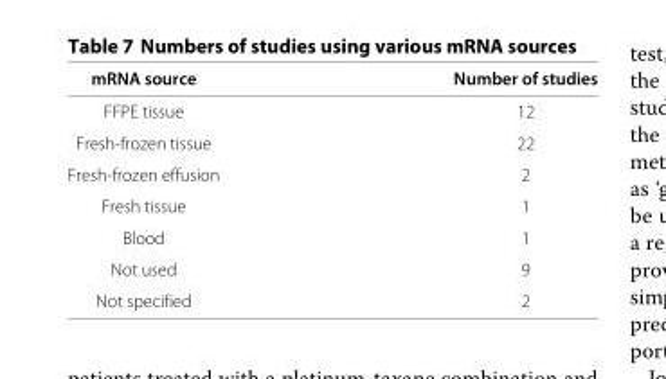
<table><thead><tr><td>mRNA source</td><td>Number of studies</td></tr></thead><tbody><tr><td>FFPE tissue</td><td>12</td></tr><tr><td>Fresh-frozen tissue</td><td>22</td></tr><tr><td>Fresh-frozen effusion</td><td>2</td></tr><tr><td>Fresh tissue</td><td>1</td></tr><tr><td>Blood</td><td>1</td></tr><tr><td>Not used</td><td>9</td></tr><tr><td>Not specified</td><td>2</td></tr></tbody></table>